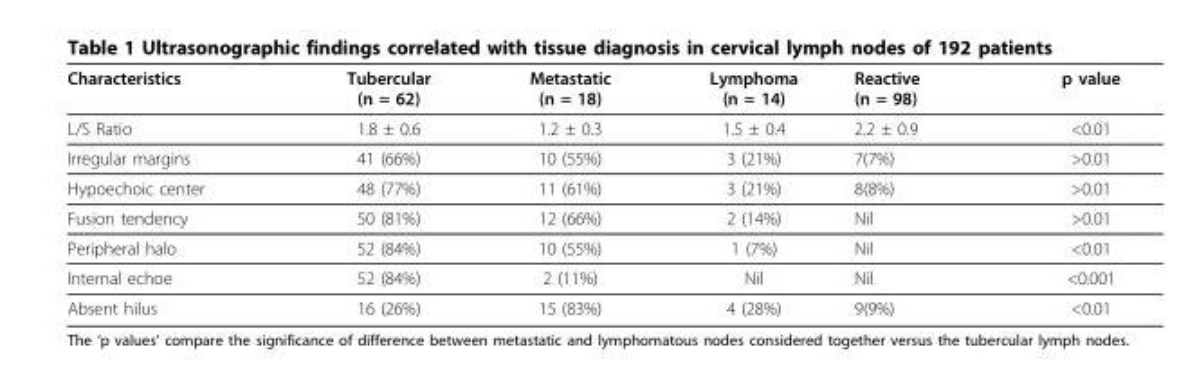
<table><thead><tr><td>Characteristics</td><td>Tubercular (n = 62)</td><td>Metastatic (n = 18)</td><td>Lymphoma (n = 14)</td><td>Reactive (n = 98)</td><td>p value</td></tr></thead><tbody><tr><td>L/S Ratio</td><td>1.8 ± 0.6</td><td>1.2 ± 0.3</td><td>1.5 ± 0.4</td><td>2.2 ± 0.9</td><td>&lt;0.01</td></tr><tr><td>Irregular margins</td><td>41 (66%)</td><td>10 (55%)</td><td>3 (21%)</td><td>7(7%)</td><td>&gt;0.01</td></tr><tr><td>Hypoechoic center</td><td>48 (77%)</td><td>11 (61%)</td><td>3 (21%)</td><td>8(8%)</td><td>&gt;0.01</td></tr><tr><td>Fusion tendency</td><td>50 (81%)</td><td>12 (66%)</td><td>2 (14%)</td><td>Nil</td><td>&gt;0.01</td></tr><tr><td>Peripheral halo</td><td>52 (84%)</td><td>10 (55%)</td><td>1 (7%)</td><td>Nil</td><td>&lt;0.01</td></tr><tr><td>Internal echoe</td><td>52 (84%)</td><td>2 (11%)</td><td>Nil</td><td>Nil</td><td>&lt;0.001</td></tr><tr><td>Absent hilus</td><td>16 (26%)</td><td>15 (83%)</td><td>4 (28%)</td><td>9(9%)</td><td>&lt;0.01</td></tr></tbody></table>